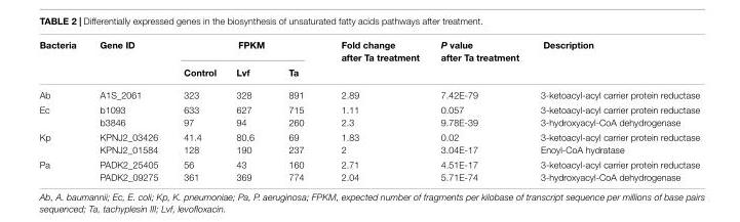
<table><thead><tr><td rowspan="2">Bacteria</td><td rowspan="2">Gene ID</td><td colspan="3">FPKM</td><td rowspan="2">Fold change after Ta treatment</td><td rowspan="2">P value after Ta treatment</td><td rowspan="2">Description</td></tr><tr><td>Control</td><td>Lvf</td><td>Ta</td></tr></thead><tbody><tr><td>Ab</td><td>A1S_2061</td><td>323</td><td>328</td><td>891</td><td>2.89</td><td>7.42E-79</td><td>3-ketoacyl-acyl carrier protein reductase</td></tr><tr><td>Ec</td><td>b1093 b3846</td><td>633 97</td><td>627 94</td><td>715 260</td><td>1.11 2.3</td><td>0.057 9.78E-39</td><td>3-ketoacyl-acyl carrier protein reductase 3-hydroxyacyl-CoA dehydrogenase</td></tr><tr><td>Kp</td><td>KPNJ2_03426 KPNJ2_01584</td><td>41.4 128</td><td>80.6 190</td><td>69 237</td><td>1.83 2</td><td>0.02 3.04E-17</td><td>3-ketoacyl-acyl carrier protein reductase Enoyl-CoA hydratase</td></tr><tr><td>Pa</td><td>PADK2_25405 PADK2_09275</td><td>56 361</td><td>43 369</td><td>160 774</td><td>2.71 2.04</td><td>4.51E-17 5.71E-74</td><td>3-ketoacyl-acyl carrier protein reductase 3-hydroxyacyl-CoA dehydrogenase</td></tr></tbody></table>